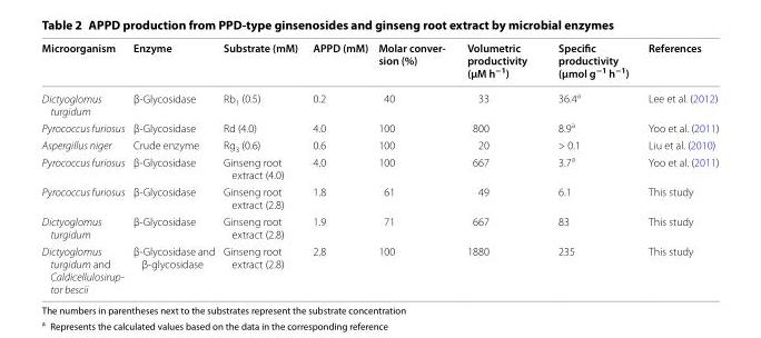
<table><thead><tr><td>Microorganism</td><td>Enzyme</td><td>Substrate (mM)</td><td>APPD (mM)</td><td>Molar conver‑ sion (%)</td><td>Volumetric productivity (µM h<sup>−1</sup>)</td><td>Specific productivity (µmol g<sup>−1</sup> h<sup>−1</sup>)</td><td>References</td></tr></thead><tbody><tr><td>Dictyoglomus turgidum</td><td>β‑Glycosidase</td><td>Rb<sub>1</sub> (0.5)</td><td>0.2</td><td>40</td><td>33</td><td>36.4<sup>a</sup></td><td>Lee et al. (2012)</td></tr><tr><td>Pyrococcus furiosus</td><td>β‑Glycosidase</td><td>Rd (4.0)</td><td>4.0</td><td>100</td><td>800</td><td>8.9<sup>a</sup></td><td>Yoo et al. (2011)</td></tr><tr><td>Aspergillus niger</td><td>Crude enzyme</td><td>Rg<sub>3</sub> (0.6)</td><td>0.6</td><td>100</td><td>20</td><td>&gt; 0.1</td><td>Liu et al. (2010)</td></tr><tr><td>Pyrococcus furiosus</td><td>β‑Glycosidase</td><td>Ginseng root extract (4.0)</td><td>4.0</td><td>100</td><td>667</td><td>3.7<sup>a</sup></td><td>Yoo et al. (2011)</td></tr><tr><td>Pyrococcus furiosus</td><td>β‑Glycosidase</td><td>Ginseng root extract (2.8)</td><td>1.8</td><td>61</td><td>49</td><td>6.1</td><td>This study</td></tr><tr><td>Dictyoglomus turgidum</td><td>β‑Glycosidase</td><td>Ginseng root extract (2.8)</td><td>1.9</td><td>71</td><td>667</td><td>83</td><td>This study</td></tr><tr><td>Dictyoglomus turgidum and Caldicellulosirup- tor bescii</td><td>β‑Glycosidase and β‑glycosidase</td><td>Ginseng root extract (2.8)</td><td>2.8</td><td>100</td><td>1880</td><td>235</td><td>This study</td></tr></tbody></table>